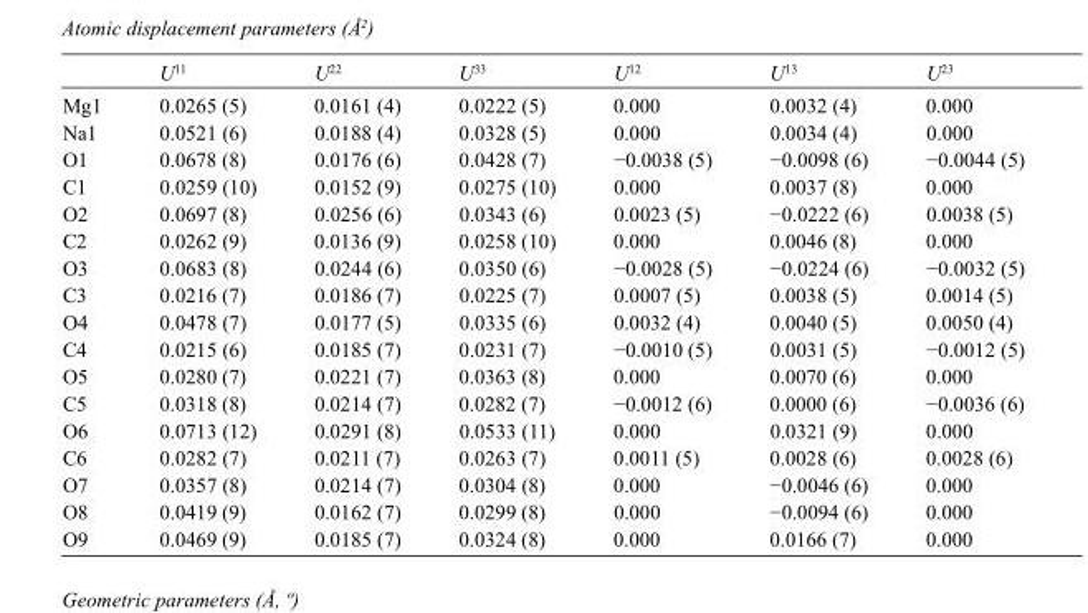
<table><thead><tr><td></td><td>U<sup>11</sup></td><td>U<sup>22</sup></td><td>U<sup>33</sup></td><td>U<sup>12</sup></td><td>U<sup>13</sup></td><td>U<sup>23</sup></td></tr></thead><tbody><tr><td>Mg1</td><td>0.0265 (5)</td><td>0.0161 (4)</td><td>0.0222 (5)</td><td>0.000</td><td>0.0032 (4)</td><td>0.000</td></tr><tr><td>Na1</td><td>0.0521 (6)</td><td>0.0188 (4)</td><td>0.0328 (5)</td><td>0.000</td><td>0.0034 (4)</td><td>0.000</td></tr><tr><td>O1</td><td>0.0678 (8)</td><td>0.0176 (6)</td><td>0.0428 (7)</td><td>−0.0038 (5)</td><td>−0.0098 (6)</td><td>−0.0044 (5)</td></tr><tr><td>C1</td><td>0.0259 (10)</td><td>0.0152 (9)</td><td>0.0275 (10)</td><td>0.000</td><td>0.0037 (8)</td><td>0.000</td></tr><tr><td>O2</td><td>0.0697 (8)</td><td>0.0256 (6)</td><td>0.0343 (6)</td><td>0.0023 (5)</td><td>−0.0222 (6)</td><td>0.0038 (5)</td></tr><tr><td>C2</td><td>0.0262 (9)</td><td>0.0136 (9)</td><td>0.0258 (10)</td><td>0.000</td><td>0.0046 (8)</td><td>0.000</td></tr><tr><td>O3</td><td>0.0683 (8)</td><td>0.0244 (6)</td><td>0.0350 (6)</td><td>−0.0028 (5)</td><td>−0.0224 (6)</td><td>−0.0032 (5)</td></tr><tr><td>C3</td><td>0.0216 (7)</td><td>0.0186 (7)</td><td>0.0225 (7)</td><td>0.0007 (5)</td><td>0.0038 (5)</td><td>0.0014 (5)</td></tr><tr><td>O4</td><td>0.0478 (7)</td><td>0.0177 (5)</td><td>0.0335 (6)</td><td>0.0032 (4)</td><td>0.0040 (5)</td><td>0.0050 (4)</td></tr><tr><td>C4</td><td>0.0215 (6)</td><td>0.0185 (7)</td><td>0.0231 (7)</td><td>−0.0010 (5)</td><td>0.0031 (5)</td><td>−0.0012 (5)</td></tr><tr><td>O5</td><td>0.0280 (7)</td><td>0.0221 (7)</td><td>0.0363 (8)</td><td>0.000</td><td>0.0070 (6)</td><td>0.000</td></tr><tr><td>C5</td><td>0.0318 (8)</td><td>0.0214 (7)</td><td>0.0282 (7)</td><td>−0.0012 (6)</td><td>0.0000 (6)</td><td>−0.0036 (6)</td></tr><tr><td>O6</td><td>0.0713 (12)</td><td>0.0291 (8)</td><td>0.0533 (11)</td><td>0.000</td><td>0.0321 (9)</td><td>0.000</td></tr><tr><td>C6</td><td>0.0282 (7)</td><td>0.0211 (7)</td><td>0.0263 (7)</td><td>0.0011 (5)</td><td>0.0028 (6)</td><td>0.0028 (6)</td></tr><tr><td>O7</td><td>0.0357 (8)</td><td>0.0214 (7)</td><td>0.0304 (8)</td><td>0.000</td><td>−0.0046 (6)</td><td>0.000</td></tr><tr><td>O8</td><td>0.0419 (9)</td><td>0.0162 (7)</td><td>0.0299 (8)</td><td>0.000</td><td>−0.0094 (6)</td><td>0.000</td></tr><tr><td>O9</td><td>0.0469 (9)</td><td>0.0185 (7)</td><td>0.0324 (8)</td><td>0.000</td><td>0.0166 (7)</td><td>0.000</td></tr></tbody></table>